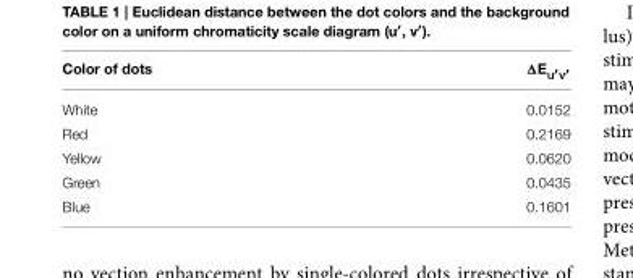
<table><thead><tr><td>Color of dots</td><td>ΔE<sub>u</sub>′v′</td></tr></thead><tbody><tr><td>White</td><td>0.0152</td></tr><tr><td>Red</td><td>0.2169</td></tr><tr><td>Yellow</td><td>0.0620</td></tr><tr><td>Green</td><td>0.0435</td></tr><tr><td>Blue</td><td>0.1601</td></tr></tbody></table>